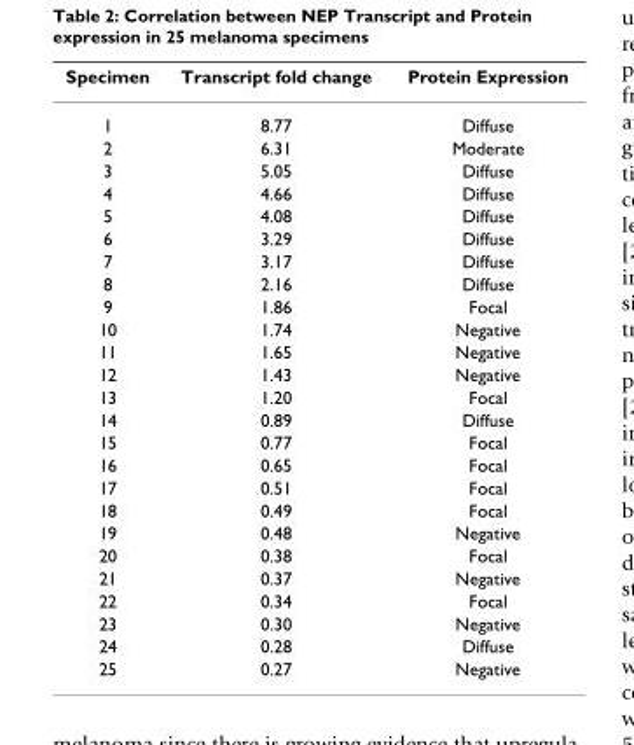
<table><thead><tr><td>Specimen</td><td>Transcript fold change</td><td>Protein Expression</td></tr></thead><tbody><tr><td>1</td><td>8.77</td><td>Diffuse</td></tr><tr><td>2</td><td>6.31</td><td>Moderate</td></tr><tr><td>3</td><td>5.05</td><td>Diffuse</td></tr><tr><td>4</td><td>4.66</td><td>Diffuse</td></tr><tr><td>5</td><td>4.08</td><td>Diffuse</td></tr><tr><td>6</td><td>3.29</td><td>Diffuse</td></tr><tr><td>7</td><td>3.17</td><td>Diffuse</td></tr><tr><td>8</td><td>2.16</td><td>Diffuse</td></tr><tr><td>9</td><td>1.86</td><td>Focal</td></tr><tr><td>10</td><td>1.74</td><td>Negative</td></tr><tr><td>11</td><td>1.65</td><td>Negative</td></tr><tr><td>12</td><td>1.43</td><td>Negative</td></tr><tr><td>13</td><td>1.20</td><td>Focal</td></tr><tr><td>14</td><td>0.89</td><td>Diffuse</td></tr><tr><td>15</td><td>0.77</td><td>Focal</td></tr><tr><td>16</td><td>0.65</td><td>Focal</td></tr><tr><td>17</td><td>0.51</td><td>Focal</td></tr><tr><td>18</td><td>0.49</td><td>Focal</td></tr><tr><td>19</td><td>0.48</td><td>Negative</td></tr><tr><td>20</td><td>0.38</td><td>Focal</td></tr><tr><td>21</td><td>0.37</td><td>Negative</td></tr><tr><td>22</td><td>0.34</td><td>Focal</td></tr><tr><td>23</td><td>0.30</td><td>Negative</td></tr><tr><td>24</td><td>0.28</td><td>Diffuse</td></tr><tr><td>25</td><td>0.27</td><td>Negative</td></tr></tbody></table>